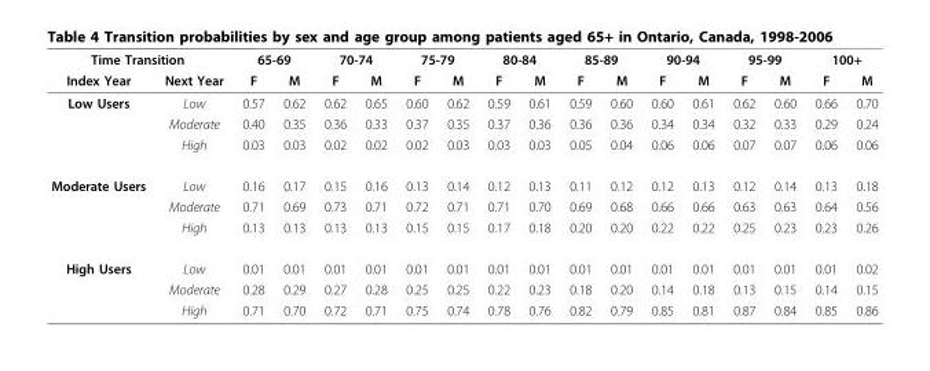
<table><thead><tr><td colspan="2">Time Transition</td><td colspan="2">65-69</td><td colspan="2">70-74</td><td colspan="2">75-79</td><td colspan="2">80-84</td><td colspan="2">85-89</td><td colspan="2">90-94</td><td colspan="2">95-99</td><td colspan="2">100+</td></tr><tr><td>Index Year</td><td>Next Year</td><td>F</td><td>M</td><td>F</td><td>M</td><td>F</td><td>M</td><td>F</td><td>M</td><td>F</td><td>M</td><td>F</td><td>M</td><td>F</td><td>M</td><td>F</td><td>M</td></tr></thead><tbody><tr><td rowspan="3">Low Users</td><td>Low</td><td>0.57</td><td>0.62</td><td>0.62</td><td>0.65</td><td>0.60</td><td>0.62</td><td>0.59</td><td>0.61</td><td>0.59</td><td>0.60</td><td>0.60</td><td>0.61</td><td>0.62</td><td>0.60</td><td>0.66</td><td>0.70</td></tr><tr><td>Moderate</td><td>0.40</td><td>0.35</td><td>0.36</td><td>0.33</td><td>0.37</td><td>0.35</td><td>0.37</td><td>0.36</td><td>0.36</td><td>0.36</td><td>0.34</td><td>0.34</td><td>0.32</td><td>0.33</td><td>0.29</td><td>0.24</td></tr><tr><td>High</td><td>0.03</td><td>0.03</td><td>0.02</td><td>0.02</td><td>0.02</td><td>0.03</td><td>0.03</td><td>0.03</td><td>0.05</td><td>0.04</td><td>0.06</td><td>0.06</td><td>0.07</td><td>0.07</td><td>0.06</td><td>0.06</td></tr><tr><td rowspan="3">Moderate Users</td><td>Low</td><td>0.16</td><td>0.17</td><td>0.15</td><td>0.16</td><td>0.13</td><td>0.14</td><td>0.12</td><td>0.13</td><td>0.11</td><td>0.12</td><td>0.12</td><td>0.13</td><td>0.12</td><td>0.14</td><td>0.13</td><td>0.18</td></tr><tr><td>Moderate</td><td>0.71</td><td>0.69</td><td>0.73</td><td>0.71</td><td>0.72</td><td>0.71</td><td>0.71</td><td>0.70</td><td>0.69</td><td>0.68</td><td>0.66</td><td>0.66</td><td>0.63</td><td>0.63</td><td>0.64</td><td>0.56</td></tr><tr><td>High</td><td>0.13</td><td>0.13</td><td>0.13</td><td>0.13</td><td>0.15</td><td>0.15</td><td>0.17</td><td>0.18</td><td>0.20</td><td>0.20</td><td>0.22</td><td>0.22</td><td>0.25</td><td>0.23</td><td>0.23</td><td>0.26</td></tr><tr><td rowspan="3">High Users</td><td>Low</td><td>0.01</td><td>0.01</td><td>0.01</td><td>0.01</td><td>0.01</td><td>0.01</td><td>0.01</td><td>0.01</td><td>0.01</td><td>0.01</td><td>0.01</td><td>0.01</td><td>0.01</td><td>0.01</td><td>0.01</td><td>0.02</td></tr><tr><td>Moderate</td><td>0.28</td><td>0.29</td><td>0.27</td><td>0.28</td><td>0.25</td><td>0.25</td><td>0.22</td><td>0.23</td><td>0.18</td><td>0.20</td><td>0.14</td><td>0.18</td><td>0.13</td><td>0.15</td><td>0.14</td><td>0.15</td></tr><tr><td>High</td><td>0.71</td><td>0.70</td><td>0.72</td><td>0.71</td><td>0.75</td><td>0.74</td><td>0.78</td><td>0.76</td><td>0.82</td><td>0.79</td><td>0.85</td><td>0.81</td><td>0.87</td><td>0.84</td><td>0.85</td><td>0.86</td></tr></tbody></table>